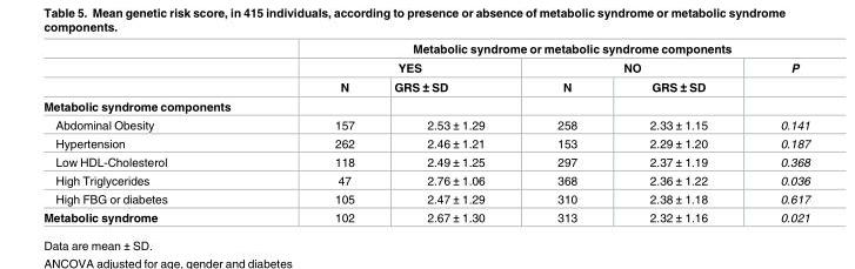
<table><thead><tr><td rowspan="3"></td><td colspan="5">Metabolic syndrome or metabolic syndrome components</td></tr><tr><td colspan="2">YES</td><td colspan="2">NO</td><td rowspan="2">P</td></tr><tr><td>N</td><td>GRS ± SD</td><td>N</td><td>GRS ± SD</td></tr></thead><tbody><tr><td colspan="6">Metabolic syndrome components</td></tr><tr><td>Abdominal Obesity</td><td>157</td><td>2.53 ± 1.29</td><td>258</td><td>2.33 ± 1.15</td><td>0.141</td></tr><tr><td>Hypertension</td><td>262</td><td>2.46 ± 1.21</td><td>153</td><td>2.29 ± 1.20</td><td>0.187</td></tr><tr><td>Low HDL-Cholesterol</td><td>118</td><td>2.49 ± 1.25</td><td>297</td><td>2.37 ± 1.19</td><td>0.368</td></tr><tr><td>High Triglycerides</td><td>47</td><td>2.76 ± 1.06</td><td>368</td><td>2.36 ± 1.22</td><td>0.036</td></tr><tr><td>High FBG or diabetes</td><td>105</td><td>2.47 ± 1.29</td><td>310</td><td>2.38 ± 1.18</td><td>0.617</td></tr><tr><td>Metabolic syndrome</td><td>102</td><td>2.67 ± 1.30</td><td>313</td><td>2.32 ± 1.16</td><td>0.021</td></tr></tbody></table>